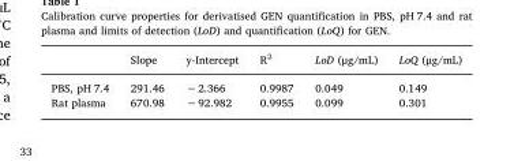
<table><thead><tr><td></td><td>Slope</td><td>y-Intercept</td><td>R<sup>2</sup></td><td>LoD (μg/mL)</td><td>LoQ (μg/mL)</td></tr></thead><tbody><tr><td>PBS, pH 7.4</td><td>291.46</td><td>−2.366</td><td>0.9987</td><td>0.049</td><td>0.149</td></tr><tr><td>Rat plasma</td><td>670.98</td><td>−92.982</td><td>0.9955</td><td>0.099</td><td>0.301</td></tr></tbody></table>